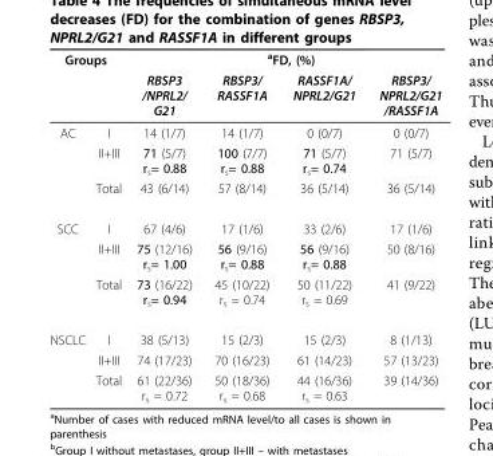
<table><thead><tr><td colspan="2">Groups</td><td colspan="4"><sup>a</sup>FD, (%)</td></tr><tr><td></td><td></td><td>RBSP3 /NPRL2/ G21</td><td>RBSP3/ RASSF1A</td><td>RASSF1A/ NPRL2/G21</td><td>RBSP3/ NPRL2/G21 /RASSF1A</td></tr></thead><tbody><tr><td rowspan="3">AC</td><td>I</td><td>14 (1/7)</td><td>14 (1/7)</td><td>0 (0/7)</td><td>0 (0/7)</td></tr><tr><td>II+III</td><td>71 (5/7) r<sub>s</sub>= 0.88</td><td>100 (7/7) r<sub>s</sub>= 0.88</td><td>71 (5/7) r<sub>s</sub>= 0.74</td><td>71 (5/7)</td></tr><tr><td>Total</td><td>43 (6/14)</td><td>57 (8/14)</td><td>36 (5/14)</td><td>36 (5/14)</td></tr><tr><td rowspan="3">SCC</td><td>I</td><td>67 (4/6)</td><td>17 (1/6)</td><td>33 (2/6)</td><td>17 (1/6)</td></tr><tr><td>II+III</td><td>75 (12/16) r<sub>s</sub>= 1.00</td><td>56 (9/16) r<sub>s</sub>= 0.88</td><td>56 (9/16) r<sub>s</sub>= 0.88</td><td>50 (8/16)</td></tr><tr><td>Total</td><td>73 (16/22) r<sub>s</sub>= 0.94</td><td>45 (10/22) r<sub>s</sub> = 0.74</td><td>50 (11/22) r<sub>s</sub> = 0.69</td><td>41 (9/22)</td></tr><tr><td rowspan="3">NSCLC</td><td>I</td><td>38 (5/13)</td><td>15 (2/3)</td><td>15 (2/3)</td><td>8 (1/13)</td></tr><tr><td>II+III</td><td>74 (17/23)</td><td>70 (16/23)</td><td>61 (14/23)</td><td>57 (13/23)</td></tr><tr><td>Total</td><td>61 (22/36) r<sub>s</sub> = 0.72</td><td>50 (18/36) r<sub>s</sub> = 0.68</td><td>44 (16/36) r<sub>s</sub> = 0.63</td><td>39 (14/36)</td></tr></tbody></table>